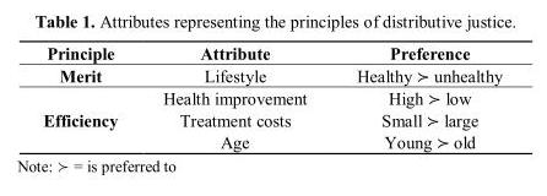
<table><thead><tr><td>Principle</td><td>Attribute</td><td>Preference</td></tr></thead><tbody><tr><td>Merit</td><td>Lifestyle</td><td>Healthy ≻ unhealthy</td></tr><tr><td rowspan="3">Efficiency</td><td>Health improvement</td><td>High ≻ low</td></tr><tr><td>Treatment costs</td><td>Small ≻ large</td></tr><tr><td>Age</td><td>Young ≻ old</td></tr></tbody></table>